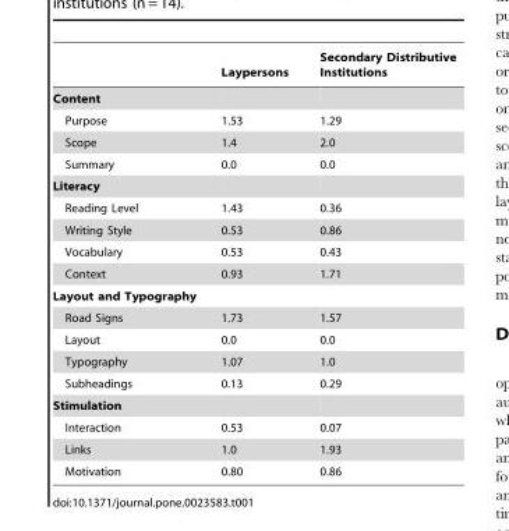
<table><thead><tr><td></td><td>Laypersons</td><td>Secondary Distributive Institutions</td></tr></thead><tbody><tr><td colspan="3">Content</td></tr><tr><td>Purpose</td><td>1.53</td><td>1.29</td></tr><tr><td>Scope</td><td>1.4</td><td>2.0</td></tr><tr><td>Summary</td><td>0.0</td><td>0.0</td></tr><tr><td colspan="3">Literacy</td></tr><tr><td>Reading Level</td><td>1.43</td><td>0.36</td></tr><tr><td>Writing Style</td><td>0.53</td><td>0.86</td></tr><tr><td>Vocabulary</td><td>0.53</td><td>0.43</td></tr><tr><td>Context</td><td>0.93</td><td>1.71</td></tr><tr><td colspan="3">Layout and Typography</td></tr><tr><td>Road Signs</td><td>1.73</td><td>1.57</td></tr><tr><td>Layout</td><td>0.0</td><td>0.0</td></tr><tr><td>Typography</td><td>1.07</td><td>1.0</td></tr><tr><td>Subheadings</td><td>0.13</td><td>0.29</td></tr><tr><td colspan="3">Stimulation</td></tr><tr><td>Interaction</td><td>0.53</td><td>0.07</td></tr><tr><td>Links</td><td>1.0</td><td>1.93</td></tr><tr><td>Motivation</td><td>0.80</td><td>0.86</td></tr></tbody></table>